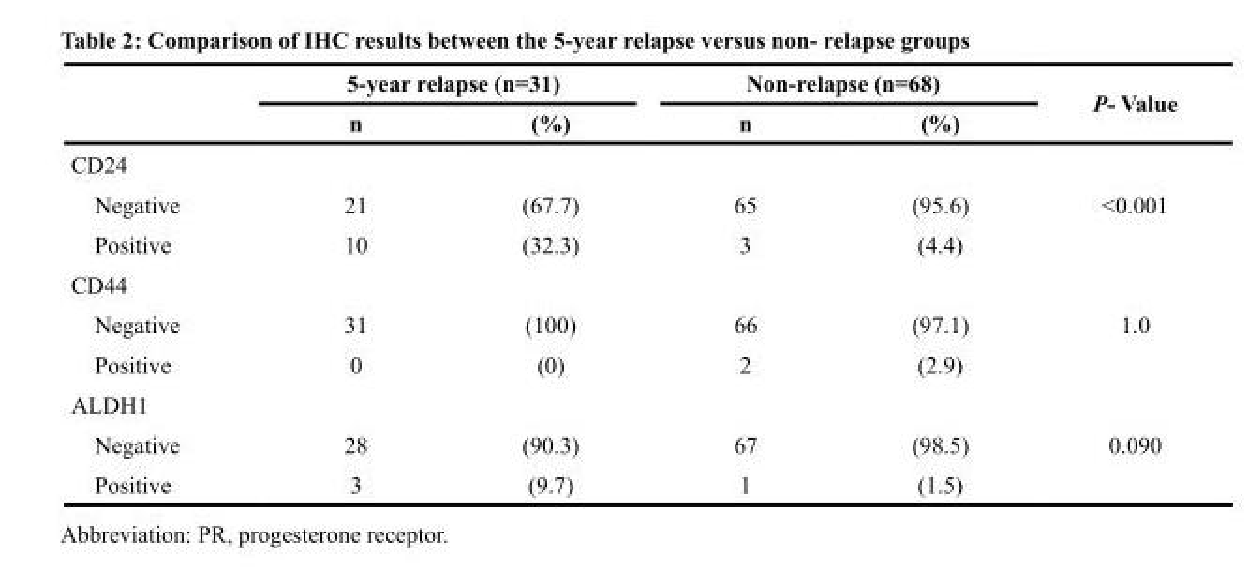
<table><thead><tr><td rowspan="2"></td><td colspan="2">5-year relapse (n=31)</td><td colspan="2">Non-relapse (n=68)</td><td rowspan="2">P- Value</td></tr><tr><td>n</td><td>(%)</td><td>n</td><td>(%)</td></tr></thead><tbody><tr><td colspan="6">CD24</td></tr><tr><td>Negative</td><td>21</td><td>(67.7)</td><td>65</td><td>(95.6)</td><td>&lt;0.001</td></tr><tr><td>Positive</td><td>10</td><td>(32.3)</td><td>3</td><td>(4.4)</td><td></td></tr><tr><td colspan="6">CD44</td></tr><tr><td>Negative</td><td>31</td><td>(100)</td><td>66</td><td>(97.1)</td><td>1.0</td></tr><tr><td>Positive</td><td>0</td><td>(0)</td><td>2</td><td>(2.9)</td><td></td></tr><tr><td colspan="6">ALDH1</td></tr><tr><td>Negative</td><td>28</td><td>(90.3)</td><td>67</td><td>(98.5)</td><td>0.090</td></tr><tr><td>Positive</td><td>3</td><td>(9.7)</td><td>1</td><td>(1.5)</td><td></td></tr></tbody></table>